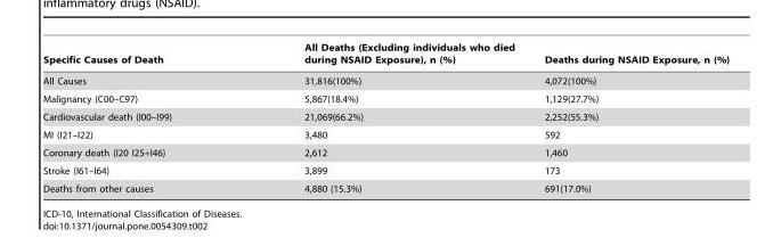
<table><thead><tr><td>Specific Causes of Death</td><td>All Deaths (Excluding individuals who died during NSAID Exposure), n (%)</td><td>Deaths during NSAID Exposure, n (%)</td></tr></thead><tbody><tr><td>All Causes</td><td>31,816(100%)</td><td>4,072(100%)</td></tr><tr><td>Malignancy (C00–C97)</td><td>5,867(18.4%)</td><td>1,129(27.7%)</td></tr><tr><td>Cardiovascular death (I00–I99)</td><td>21,069(66.2%)</td><td>2,252(55.3%)</td></tr><tr><td>MI (I21–I22)</td><td>3,480</td><td>592</td></tr><tr><td>Coronary death (I20 I25+I46)</td><td>2,612</td><td>1,460</td></tr><tr><td>Stroke (I61–I64)</td><td>3,899</td><td>173</td></tr><tr><td>Deaths from other causes</td><td>4,880 (15.3%)</td><td>691(17.0%)</td></tr></tbody></table>